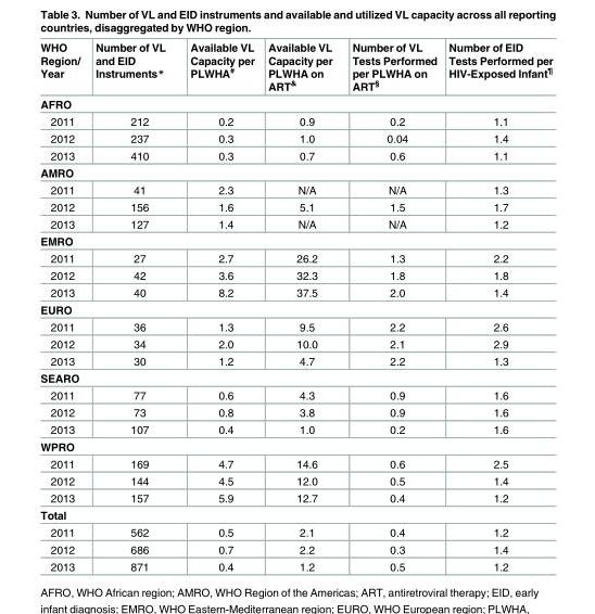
<table><thead><tr><td>WHO Region/ Year</td><td>Number of VL and EID Instruments*</td><td>Available VL Capacity per PLWHA<sup>#</sup></td><td>Available VL Capacity per PLWHA on ART<sup>&amp;</sup></td><td>Number of VL Tests Performed per PLWHA on ART<sup>§</sup></td><td>Number of EID Tests Performed per HIV-Exposed Infant<sup>¶</sup></td></tr></thead><tbody><tr><td colspan="6">AFRO</td></tr><tr><td>2011</td><td>212</td><td>0.2</td><td>0.9</td><td>0.2</td><td>1.1</td></tr><tr><td>2012</td><td>237</td><td>0.3</td><td>1.0</td><td>0.04</td><td>1.4</td></tr><tr><td>2013</td><td>410</td><td>0.3</td><td>0.7</td><td>0.6</td><td>1.1</td></tr><tr><td colspan="6">AMRO</td></tr><tr><td>2011</td><td>41</td><td>2.3</td><td>N/A</td><td>N/A</td><td>1.3</td></tr><tr><td>2012</td><td>156</td><td>1.6</td><td>5.1</td><td>1.5</td><td>1.7</td></tr><tr><td>2013</td><td>127</td><td>1.4</td><td>N/A</td><td>N/A</td><td>1.2</td></tr><tr><td colspan="6">EMRO</td></tr><tr><td>2011</td><td>27</td><td>2.7</td><td>26.2</td><td>1.3</td><td>2.2</td></tr><tr><td>2012</td><td>42</td><td>3.6</td><td>32.3</td><td>1.8</td><td>1.8</td></tr><tr><td>2013</td><td>40</td><td>8.2</td><td>37.5</td><td>2.0</td><td>1.4</td></tr><tr><td colspan="6">EURO</td></tr><tr><td>2011</td><td>36</td><td>1.3</td><td>9.5</td><td>2.2</td><td>2.6</td></tr><tr><td>2012</td><td>34</td><td>2.0</td><td>10.0</td><td>2.1</td><td>2.9</td></tr><tr><td>2013</td><td>30</td><td>1.2</td><td>4.7</td><td>2.2</td><td>1.3</td></tr><tr><td colspan="6">SEARO</td></tr><tr><td>2011</td><td>77</td><td>0.6</td><td>4.3</td><td>0.9</td><td>1.6</td></tr><tr><td>2012</td><td>73</td><td>0.8</td><td>3.8</td><td>0.9</td><td>1.6</td></tr><tr><td>2013</td><td>107</td><td>0.4</td><td>1.0</td><td>0.2</td><td>1.6</td></tr><tr><td colspan="6">WPRO</td></tr><tr><td>2011</td><td>169</td><td>4.7</td><td>14.6</td><td>0.6</td><td>2.5</td></tr><tr><td>2012</td><td>144</td><td>4.5</td><td>12.0</td><td>0.5</td><td>1.4</td></tr><tr><td>2013</td><td>157</td><td>5.9</td><td>12.7</td><td>0.4</td><td>1.2</td></tr><tr><td colspan="6">Total</td></tr><tr><td>2011</td><td>562</td><td>0.5</td><td>2.1</td><td>0.4</td><td>1.2</td></tr><tr><td>2012</td><td>686</td><td>0.7</td><td>2.2</td><td>0.3</td><td>1.4</td></tr><tr><td>2013</td><td>871</td><td>0.4</td><td>1.2</td><td>0.5</td><td>1.2</td></tr></tbody></table>